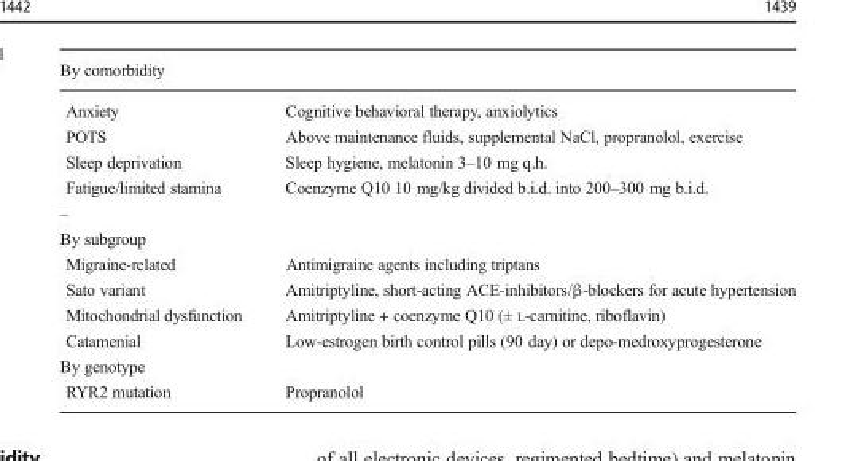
<table><thead><tr><td colspan="2">By comorbidity</td></tr><tr><td>Anxiety</td><td>Cognitive behavioral therapy, anxiolytics</td></tr></thead><tbody><tr><td>POTS</td><td>Above maintenance fluids, supplemental NaCl, propranolol, exercise</td></tr><tr><td>Sleep deprivation</td><td>Sleep hygiene, melatonin 3–10 mg q.h.</td></tr><tr><td>Fatigue/limited stamina</td><td>Coenzyme Q10 10 mg/kg divided b.i.d. into 200–300 mg b.i.d.</td></tr><tr><td colspan="2">–</td></tr><tr><td colspan="2">By subgroup</td></tr><tr><td>Migraine-related</td><td>Antimigraine agents including triptans</td></tr><tr><td>Sato variant</td><td>Amitriptyline, short-acting ACE-inhibitors/β-blockers for acute hypertension</td></tr><tr><td>Mitochondrial dysfunction</td><td>Amitriptyline + coenzyme Q10 (± L-carnitine, riboflavin)</td></tr><tr><td>Catamenial</td><td>Low-estrogen birth control pills (90 day) or depo-medroxyprogesterone</td></tr><tr><td colspan="2">By genotype</td></tr><tr><td>RYR2 mutation</td><td>Propranolol</td></tr></tbody></table>